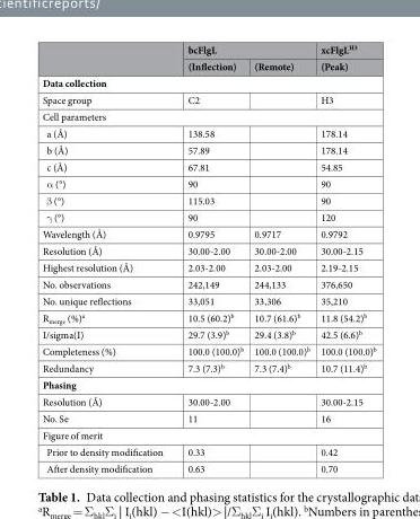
<table><thead><tr><td rowspan="2"></td><td colspan="2">bcFlgL</td><td rowspan="2">xcFlgL<sup>H3</sup> (Peak)</td></tr><tr><td>(Inflection)</td><td>(Remote)</td></tr></thead><tbody><tr><td colspan="4">Data collection</td></tr><tr><td>Space group</td><td>C2</td><td></td><td>H3</td></tr><tr><td colspan="4">Cell parameters</td></tr><tr><td>a (Å)</td><td>138.58</td><td></td><td>178.14</td></tr><tr><td>b (Å)</td><td>57.89</td><td></td><td>178.14</td></tr><tr><td>c (Å)</td><td>67.81</td><td></td><td>54.85</td></tr><tr><td>α (°)</td><td>90</td><td></td><td>90</td></tr><tr><td>β (°)</td><td>115.03</td><td></td><td>90</td></tr><tr><td>γ (°)</td><td>90</td><td></td><td>120</td></tr><tr><td>Wavelength (Å)</td><td>0.9795</td><td>0.9717</td><td>0.9792</td></tr><tr><td>Resolution (Å)</td><td>30.00-2.00</td><td>30.00-2.00</td><td>30.00-2.15</td></tr><tr><td>Highest resolution (Å)</td><td>2.03-2.00</td><td>2.03-2.00</td><td>2.19-2.15</td></tr><tr><td>No. observations</td><td>242,149</td><td>244,133</td><td>376,650</td></tr><tr><td>No. unique reflections</td><td>33,051</td><td>33,306</td><td>35,210</td></tr><tr><td>R<sub>merge</sub> (%)<sup>a</sup></td><td>10.5 (60.2)<sup>b</sup></td><td>10.7 (61.6)<sup>b</sup></td><td>11.8 (54.2)<sup>b</sup></td></tr><tr><td>I/sigma(I)</td><td>29.7 (3.9)<sup>b</sup></td><td>29.4 (3.8)<sup>b</sup></td><td>42.5 (6.6)<sup>b</sup></td></tr><tr><td>Completeness (%)</td><td>100.0 (100.0)<sup>b</sup></td><td>100.0 (100.0)<sup>b</sup></td><td>100.0 (100.0)<sup>b</sup></td></tr><tr><td>Redundancy</td><td>7.3 (7.3)<sup>b</sup></td><td>7.3 (7.4)<sup>b</sup></td><td>10.7 (11.4)<sup>b</sup></td></tr><tr><td colspan="4">Phasing</td></tr><tr><td>Resolution (Å)</td><td>30.00-2.00</td><td></td><td>30.00-2.15</td></tr><tr><td>No. Se</td><td>11</td><td></td><td>16</td></tr><tr><td colspan="4">Figure of merit</td></tr><tr><td>Prior to density modification</td><td>0.33</td><td></td><td>0.42</td></tr><tr><td>After density modification</td><td>0.63</td><td></td><td>0.70</td></tr></tbody></table>